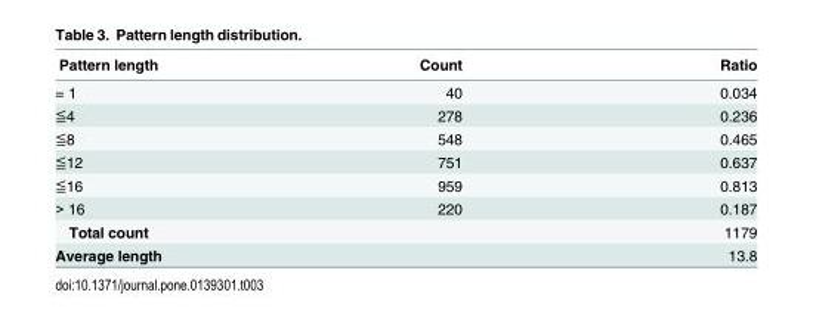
<table><thead><tr><td>Pattern length</td><td>Count</td><td>Ratio</td></tr></thead><tbody><tr><td>= 1</td><td>40</td><td>0.034</td></tr><tr><td>≦4</td><td>278</td><td>0.236</td></tr><tr><td>≦8</td><td>548</td><td>0.465</td></tr><tr><td>≦12</td><td>751</td><td>0.637</td></tr><tr><td>≦16</td><td>959</td><td>0.813</td></tr><tr><td>&gt; 16</td><td>220</td><td>0.187</td></tr><tr><td>Total count</td><td colspan="2">1179</td></tr><tr><td>Average length</td><td colspan="2">13.8</td></tr></tbody></table>